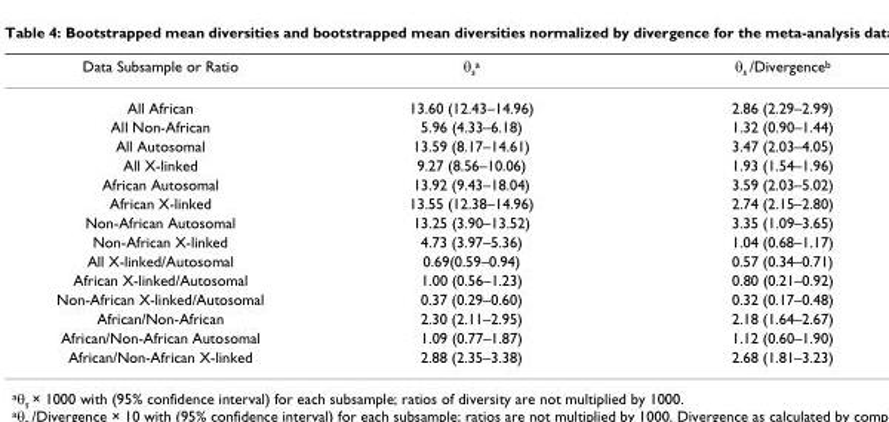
<table><thead><tr><td>Data Subsample or Ratio</td><td>θ<sub>s</sub><sup>a</sup></td><td>θ<sub>s</sub> /Divergence<sup>b</sup></td></tr></thead><tbody><tr><td>All African</td><td>13.60 (12.43–14.96)</td><td>2.86 (2.29–2.99)</td></tr><tr><td>All Non-African</td><td>5.96 (4.33–6.18)</td><td>1.32 (0.90–1.44)</td></tr><tr><td>All Autosomal</td><td>13.59 (8.17–14.61)</td><td>3.47 (2.03–4.05)</td></tr><tr><td>All X-linked</td><td>9.27 (8.56–10.06)</td><td>1.93 (1.54–1.96)</td></tr><tr><td>African Autosomal</td><td>13.92 (9.43–18.04)</td><td>3.59 (2.03–5.02)</td></tr><tr><td>African X-linked</td><td>13.55 (12.38–14.96)</td><td>2.74 (2.15–2.80)</td></tr><tr><td>Non-African Autosomal</td><td>13.25 (3.90–13.52)</td><td>3.35 (1.09–3.65)</td></tr><tr><td>Non-African X-linked</td><td>4.73 (3.97–5.36)</td><td>1.04 (0.68–1.17)</td></tr><tr><td>All X-linked/Autosomal</td><td>0.69(0.59–0.94)</td><td>0.57 (0.34–0.71)</td></tr><tr><td>African X-linked/Autosomal</td><td>1.00 (0.56–1.23)</td><td>0.80 (0.21–0.92)</td></tr><tr><td>Non-African X-linked/Autosomal</td><td>0.37 (0.29–0.60)</td><td>0.32 (0.17–0.48)</td></tr><tr><td>African/Non-African</td><td>2.30 (2.11–2.95)</td><td>2.18 (1.64–2.67)</td></tr><tr><td>African/Non-African Autosomal</td><td>1.09 (0.77–1.87)</td><td>1.12 (0.60–1.90)</td></tr><tr><td>African/Non-African X-linked</td><td>2.88 (2.35–3.38)</td><td>2.68 (1.81–3.23)</td></tr></tbody></table>